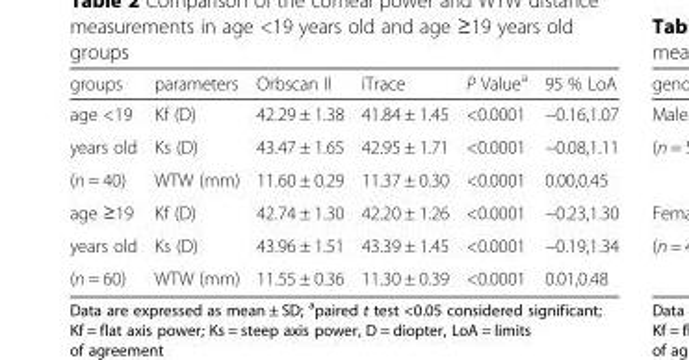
<table><thead><tr><td>groups</td><td>parameters</td><td>Orbscan II</td><td>iTrace</td><td>P Value<sup>a</sup></td><td>95 % LoA</td></tr></thead><tbody><tr><td>age &lt;19</td><td>Kf (D)</td><td>42.29 ± 1.38</td><td>41.84 ± 1.45</td><td>&lt;0.0001</td><td>−0.16,1.07</td></tr><tr><td>years old</td><td>Ks (D)</td><td>43.47 ± 1.65</td><td>42.95 ± 1.71</td><td>&lt;0.0001</td><td>−0.08,1.11</td></tr><tr><td>(n = 40)</td><td>WTW (mm)</td><td>11.60 ± 0.29</td><td>11.37 ± 0.30</td><td>&lt;0.0001</td><td>0.00,0.45</td></tr><tr><td>age ≥19</td><td>Kf (D)</td><td>42.74 ± 1.30</td><td>42.20 ± 1.26</td><td>&lt;0.0001</td><td>−0.23,1.30</td></tr><tr><td>years old</td><td>Ks (D)</td><td>43.96 ± 1.51</td><td>43.39 ± 1.45</td><td>&lt;0.0001</td><td>−0.19,1.34</td></tr><tr><td>(n = 60)</td><td>WTW (mm)</td><td>11.55 ± 0.36</td><td>11.30 ± 0.39</td><td>&lt;0.0001</td><td>0.01,0.48</td></tr></tbody></table>